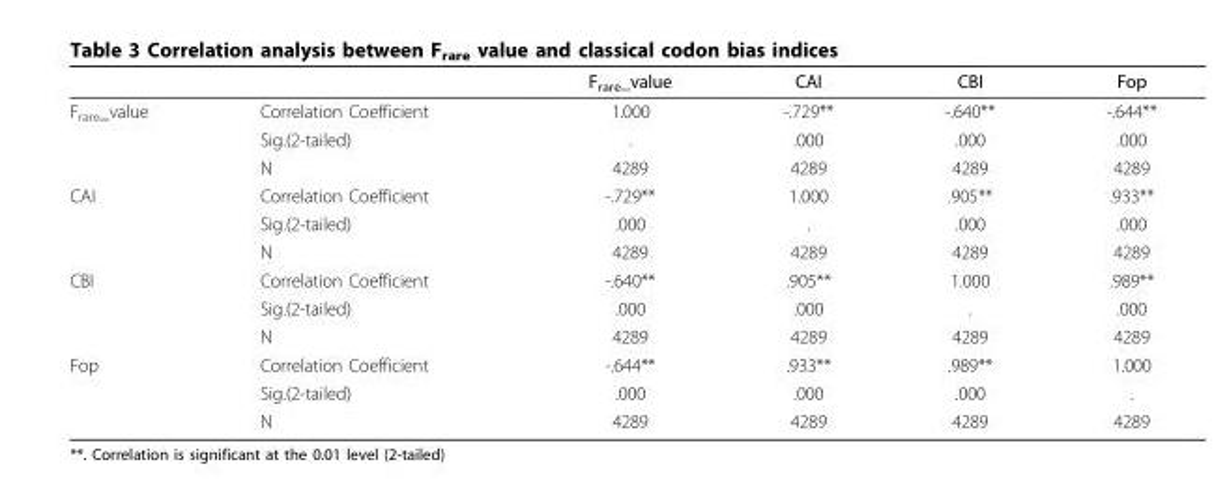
<table><thead><tr><td></td><td></td><td>Frare_value</td><td>CAI</td><td>CBI</td><td>Fop</td></tr></thead><tbody><tr><td rowspan="3">Frare_value</td><td>Correlation Coefficient</td><td>1.000</td><td>-.729**</td><td>-.640**</td><td>-.644**</td></tr><tr><td>Sig.(2-tailed)</td><td>.</td><td>.000</td><td>.000</td><td>.000</td></tr><tr><td>N</td><td>4289</td><td>4289</td><td>4289</td><td>4289</td></tr><tr><td rowspan="3">CAI</td><td>Correlation Coefficient</td><td>-.729**</td><td>1.000</td><td>.905**</td><td>.933**</td></tr><tr><td>Sig.(2-tailed)</td><td>.000</td><td>.</td><td>.000</td><td>.000</td></tr><tr><td>N</td><td>4289</td><td>4289</td><td>4289</td><td>4289</td></tr><tr><td rowspan="3">CBI</td><td>Correlation Coefficient</td><td>-.640**</td><td>.905**</td><td>1.000</td><td>.989**</td></tr><tr><td>Sig.(2-tailed)</td><td>.000</td><td>.000</td><td>.</td><td>.000</td></tr><tr><td>N</td><td>4289</td><td>4289</td><td>4289</td><td>4289</td></tr><tr><td rowspan="3">Fop</td><td>Correlation Coefficient</td><td>-.644**</td><td>.933**</td><td>.989**</td><td>1.000</td></tr><tr><td>Sig.(2-tailed)</td><td>.000</td><td>.000</td><td>.000</td><td>.</td></tr><tr><td>N</td><td>4289</td><td>4289</td><td>4289</td><td>4289</td></tr></tbody></table>